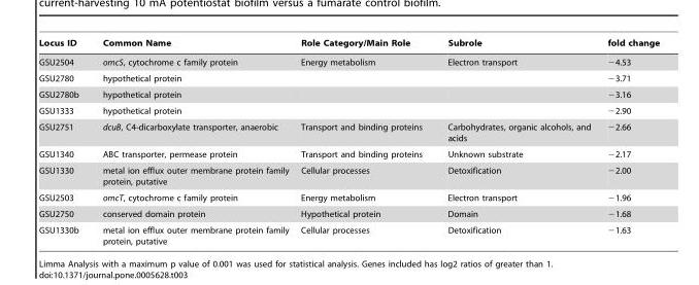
<table><thead><tr><td>Locus ID</td><td>Common Name</td><td>Role Category/Main Role</td><td>Subrole</td><td>fold change</td></tr></thead><tbody><tr><td>GSU2504</td><td>omcS, cytochrome c family protein</td><td>Energy metabolism</td><td>Electron transport</td><td>−4.53</td></tr><tr><td>GSU2780</td><td>hypothetical protein</td><td></td><td></td><td>−3.71</td></tr><tr><td>GSU2780b</td><td>hypothetical protein</td><td></td><td></td><td>−3.16</td></tr><tr><td>GSU1333</td><td>hypothetical protein</td><td></td><td></td><td>−2.90</td></tr><tr><td>GSU2751</td><td>dcuB, C4-dicarboxylate transporter, anaerobic</td><td>Transport and binding proteins</td><td>Carbohydrates, organic alcohols, and acids</td><td>−2.66</td></tr><tr><td>GSU1340</td><td>ABC transporter, permease protein</td><td>Transport and binding proteins</td><td>Unknown substrate</td><td>−2.17</td></tr><tr><td>GSU1330</td><td>metal ion efflux outer membrane protein family protein, putative</td><td>Cellular processes</td><td>Detoxification</td><td>−2.00</td></tr><tr><td>GSU2503</td><td>omcT, cytochrome c family protein</td><td>Energy metabolism</td><td>Electron transport</td><td>−1.96</td></tr><tr><td>GSU2750</td><td>conserved domain protein</td><td>Hypothetical protein</td><td>Domain</td><td>−1.68</td></tr><tr><td>GSU1330b</td><td>metal ion efflux outer membrane protein family protein, putative</td><td>Cellular processes</td><td>Detoxification</td><td>−1.63</td></tr></tbody></table>